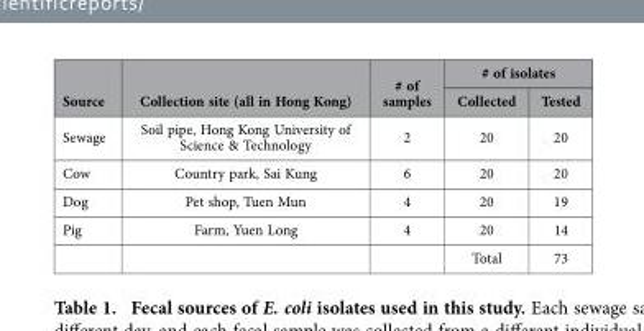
<table><thead><tr><td rowspan="2">Source</td><td rowspan="2">Collection site (all in Hong Kong)</td><td rowspan="2"># of samples</td><td colspan="2"># of isolates</td></tr><tr><td>Collected</td><td>Tested</td></tr></thead><tbody><tr><td>Sewage</td><td>Soil pipe, Hong Kong University of Science &amp; Technology</td><td>2</td><td>20</td><td>20</td></tr><tr><td>Cow</td><td>Country park, Sai Kung</td><td>6</td><td>20</td><td>20</td></tr><tr><td>Dog</td><td>Pet shop, Tuen Mun</td><td>4</td><td>20</td><td>19</td></tr><tr><td rowspan="2">Pig</td><td>Farm, Yuen Long</td><td>4</td><td>20</td><td>14</td></tr><tr><td></td><td></td><td>Total</td><td>73</td></tr></tbody></table>